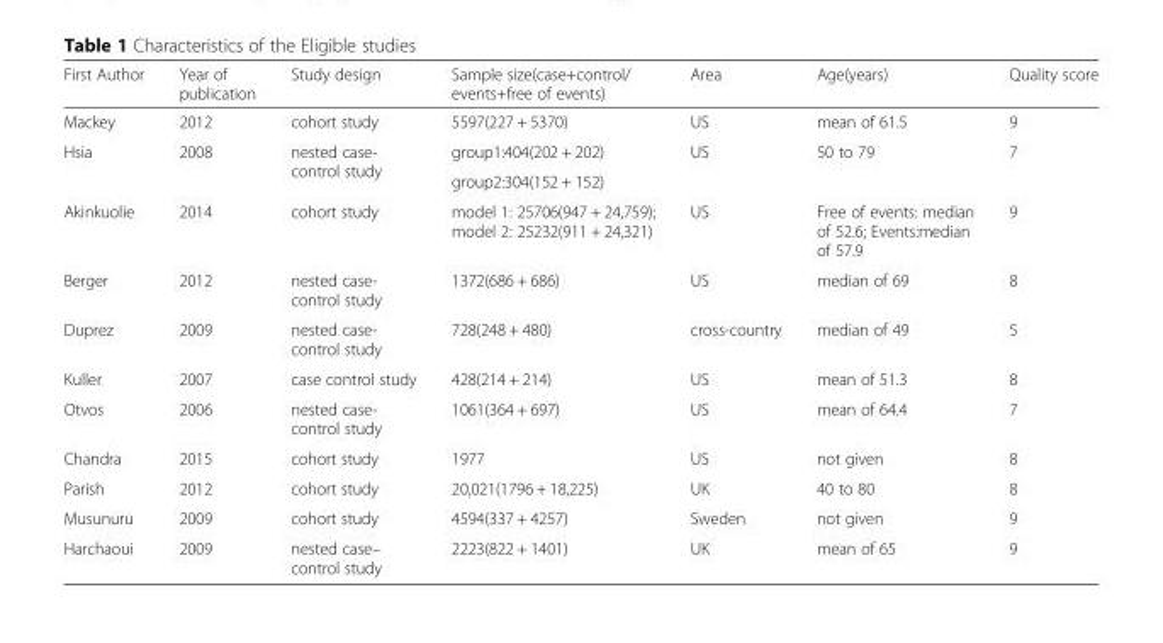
<table><thead><tr><td>First Author</td><td>Year of publication</td><td>Study design</td><td>Sample size(case+control/ events+free of events)</td><td>Area</td><td>Age(years)</td><td>Quality score</td></tr></thead><tbody><tr><td>Mackey</td><td>2012</td><td>cohort study</td><td>5597(227 + 5370)</td><td>US</td><td>mean of 61.5</td><td>9</td></tr><tr><td rowspan="2">Hsia</td><td rowspan="2">2008</td><td rowspan="2">nested case- control study</td><td>group1:404(202 + 202)</td><td rowspan="2">US</td><td rowspan="2">50 to 79</td><td rowspan="2">7</td></tr><tr><td>group2:304(152 + 152)</td></tr><tr><td>Akinkuolie</td><td>2014</td><td>cohort study</td><td>model 1: 25706(947 + 24,759); model 2: 25232(911 + 24,321)</td><td>US</td><td>Free of events: median of 52.6; Events:median of 57.9</td><td>9</td></tr><tr><td>Berger</td><td>2012</td><td>nested case- control study</td><td>1372(686 + 686)</td><td>US</td><td>median of 69</td><td>8</td></tr><tr><td>Duprez</td><td>2009</td><td>nested case- control study</td><td>728(248 + 480)</td><td>cross-country</td><td>median of 49</td><td>5</td></tr><tr><td>Kuller</td><td>2007</td><td>case control study</td><td>428(214 + 214)</td><td>US</td><td>mean of 51.3</td><td>8</td></tr><tr><td>Otvos</td><td>2006</td><td>nested case- control study</td><td>1061(364 + 697)</td><td>US</td><td>mean of 64.4</td><td>7</td></tr><tr><td>Chandra</td><td>2015</td><td>cohort study</td><td>1977</td><td>US</td><td>not given</td><td>8</td></tr><tr><td>Parish</td><td>2012</td><td>cohort study</td><td>20,021(1796 + 18,225)</td><td>UK</td><td>40 to 80</td><td>8</td></tr><tr><td>Musunuru</td><td>2009</td><td>cohort study</td><td>4594(337 + 4257)</td><td>Sweden</td><td>not given</td><td>9</td></tr><tr><td>Harchaoui</td><td>2009</td><td>nested case– control study</td><td>2223(822 + 1401)</td><td>UK</td><td>mean of 65</td><td>9</td></tr></tbody></table>